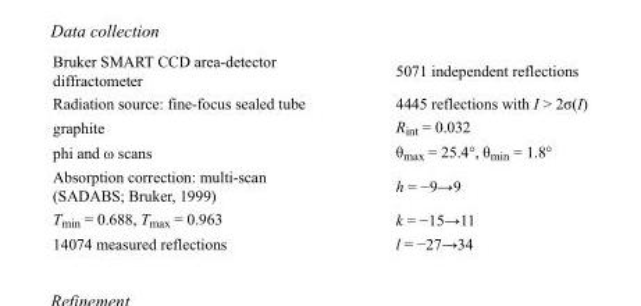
<table><tbody><tr><td>Bruker SMART CCD area-detector diffractometer</td><td>5071 independent reflections</td></tr><tr><td>Radiation source: fine-focus sealed tube</td><td>4445 reflections with I &gt; 2σ(I)</td></tr><tr><td>graphite</td><td>R<sub>int</sub> = 0.032</td></tr><tr><td>phi and ω scans</td><td>θ<sub>max</sub> = 25.4°, θ<sub>min</sub> = 1.8°</td></tr><tr><td>Absorption correction: multi-scan (SADABS; Bruker, 1999)</td><td>h = −9→9</td></tr><tr><td>T<sub>min</sub> = 0.688, T<sub>max</sub> = 0.963</td><td>k = −15→11</td></tr><tr><td>14074 measured reflections</td><td>l = −27→34</td></tr></tbody></table>